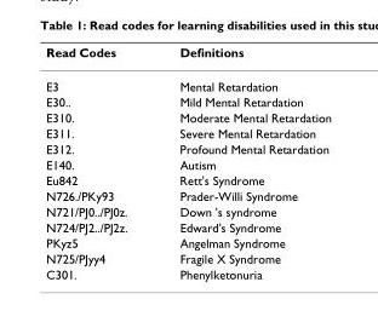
<table><thead><tr><td>Read Codes</td><td>Definitions</td></tr></thead><tbody><tr><td>E3</td><td>Mental Retardation</td></tr><tr><td>E30..</td><td>Mild Mental Retardation</td></tr><tr><td>E310.</td><td>Moderate Mental Retardation</td></tr><tr><td>E311.</td><td>Severe Mental Retardation</td></tr><tr><td>E312.</td><td>Profound Mental Retardation</td></tr><tr><td>E140.</td><td>Autism</td></tr><tr><td>Eu842</td><td>Rett&#x27;s Syndrome</td></tr><tr><td>N726./PKy93</td><td>Prader-Willi Syndrome</td></tr><tr><td>N721/PJ0../PJ0z.</td><td>Down &#x27;s syndrome</td></tr><tr><td>N724/PJ2../PJ2z.</td><td>Edward&#x27;s Syndrome</td></tr><tr><td>PKyz5</td><td>Angelman Syndrome</td></tr><tr><td>N725/PJyy4</td><td>Fragile X Syndrome</td></tr><tr><td>C301.</td><td>Phenylketonuria</td></tr></tbody></table>